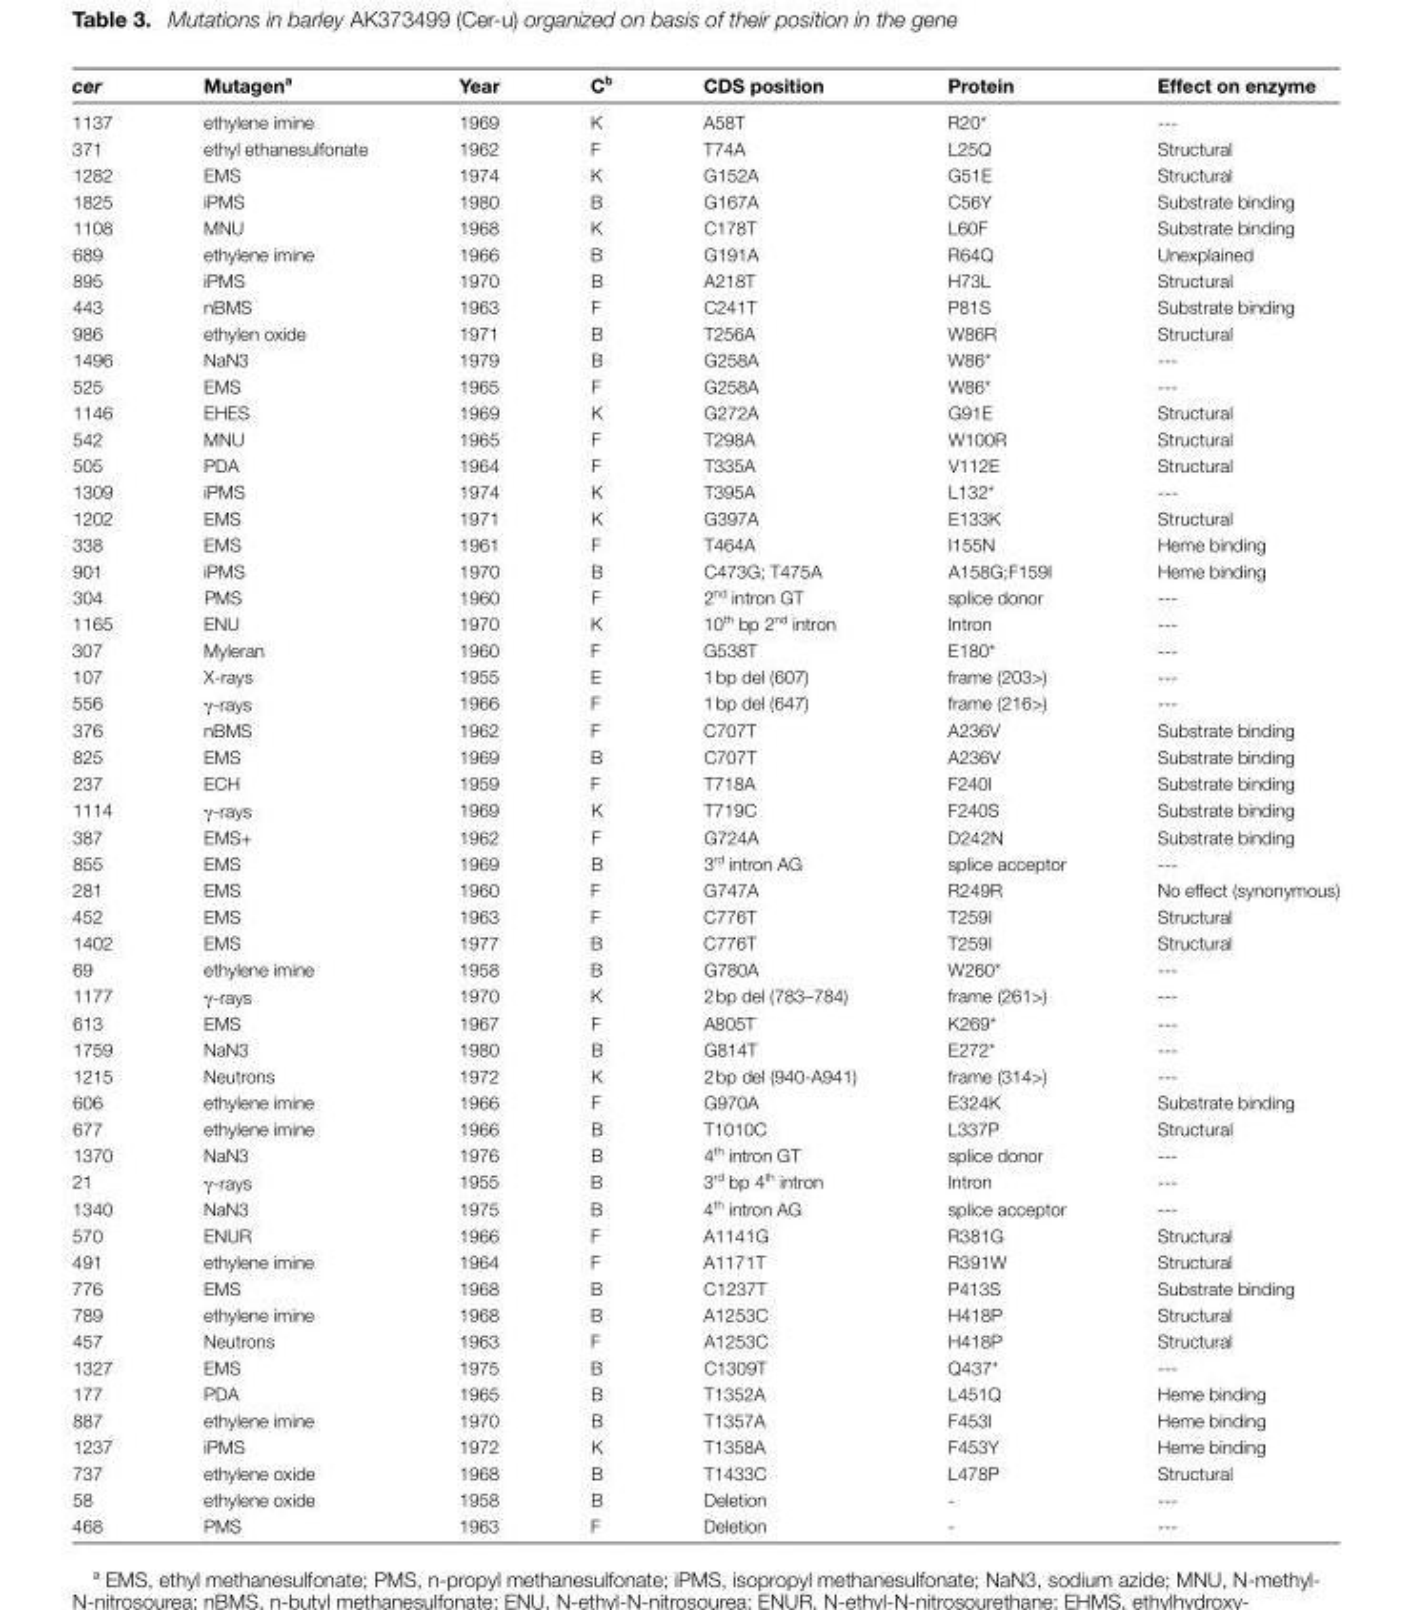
<table><thead><tr><td>cer</td><td>Mutagen<sup>a</sup></td><td>Year</td><td>C<sup>b</sup></td><td>CDS position</td><td>Protein</td><td>Effect on enzyme</td></tr></thead><tbody><tr><td>1137</td><td>ethylene imine</td><td>1969</td><td>K</td><td>A58T</td><td>R20*</td><td>---</td></tr><tr><td>371</td><td>ethyl ethanesulfonate</td><td>1962</td><td>F</td><td>T74A</td><td>L25Q</td><td>Structural</td></tr><tr><td>1282</td><td>EMS</td><td>1974</td><td>K</td><td>G152A</td><td>G51E</td><td>Structural</td></tr><tr><td>1825</td><td>iPMS</td><td>1980</td><td>B</td><td>G167A</td><td>C56Y</td><td>Substrate binding</td></tr><tr><td>1108</td><td>MNU</td><td>1968</td><td>K</td><td>C178T</td><td>L60F</td><td>Substrate binding</td></tr><tr><td>689</td><td>ethylene imine</td><td>1966</td><td>B</td><td>G191A</td><td>R64Q</td><td>Unexplained</td></tr><tr><td>895</td><td>iPMS</td><td>1970</td><td>B</td><td>A218T</td><td>H73L</td><td>Structural</td></tr><tr><td>443</td><td>nBMS</td><td>1963</td><td>F</td><td>C241T</td><td>P81S</td><td>Substrate binding</td></tr><tr><td>986</td><td>ethylen oxide</td><td>1971</td><td>B</td><td>T256A</td><td>W86R</td><td>Structural</td></tr><tr><td>1496</td><td>NaN3</td><td>1979</td><td>B</td><td>G258A</td><td>W86*</td><td>---</td></tr><tr><td>525</td><td>EMS</td><td>1965</td><td>F</td><td>G258A</td><td>W86*</td><td>---</td></tr><tr><td>1146</td><td>EHES</td><td>1969</td><td>K</td><td>G272A</td><td>G91E</td><td>Structural</td></tr><tr><td>542</td><td>MNU</td><td>1965</td><td>F</td><td>T298A</td><td>W100R</td><td>Structural</td></tr><tr><td>505</td><td>PDA</td><td>1964</td><td>F</td><td>T335A</td><td>V112E</td><td>Structural</td></tr><tr><td>1309</td><td>iPMS</td><td>1974</td><td>K</td><td>T395A</td><td>L132*</td><td>---</td></tr><tr><td>1202</td><td>EMS</td><td>1971</td><td>K</td><td>G397A</td><td>E133K</td><td>Structural</td></tr><tr><td>338</td><td>EMS</td><td>1961</td><td>F</td><td>T464A</td><td>I155N</td><td>Heme binding</td></tr><tr><td>901</td><td>iPMS</td><td>1970</td><td>B</td><td>C473G; T475A</td><td>A158G;F159I</td><td>Heme binding</td></tr><tr><td>304</td><td>PMS</td><td>1960</td><td>F</td><td>2<sup>nd</sup> intron GT</td><td>splice donor</td><td>---</td></tr><tr><td>1165</td><td>ENU</td><td>1970</td><td>K</td><td>10<sup>th</sup> bp 2<sup>nd</sup> intron</td><td>Intron</td><td>---</td></tr><tr><td>307</td><td>Myleran</td><td>1960</td><td>F</td><td>G538T</td><td>E180*</td><td>---</td></tr><tr><td>107</td><td>X-rays</td><td>1955</td><td>E</td><td>1 bp del (607)</td><td>frame (203&gt;)</td><td>---</td></tr><tr><td>556</td><td>γ-rays</td><td>1966</td><td>F</td><td>1 bp del (647)</td><td>frame (216&gt;)</td><td>---</td></tr><tr><td>376</td><td>nBMS</td><td>1962</td><td>F</td><td>C707T</td><td>A236V</td><td>Substrate binding</td></tr><tr><td>825</td><td>EMS</td><td>1969</td><td>B</td><td>C707T</td><td>A236V</td><td>Substrate binding</td></tr><tr><td>237</td><td>ECH</td><td>1959</td><td>F</td><td>T718A</td><td>F240I</td><td>Substrate binding</td></tr><tr><td>1114</td><td>γ-rays</td><td>1969</td><td>K</td><td>T719C</td><td>F240S</td><td>Substrate binding</td></tr><tr><td>387</td><td>EMS+</td><td>1962</td><td>F</td><td>G724A</td><td>D242N</td><td>Substrate binding</td></tr><tr><td>855</td><td>EMS</td><td>1969</td><td>B</td><td>3<sup>rd</sup> intron AG</td><td>splice acceptor</td><td>---</td></tr><tr><td>281</td><td>EMS</td><td>1960</td><td>F</td><td>G747A</td><td>R249R</td><td>No effect (synonymous)</td></tr><tr><td>452</td><td>EMS</td><td>1963</td><td>F</td><td>C776T</td><td>T259I</td><td>Structural</td></tr><tr><td>1402</td><td>EMS</td><td>1977</td><td>B</td><td>C776T</td><td>T259I</td><td>Structural</td></tr><tr><td>69</td><td>ethylene imine</td><td>1958</td><td>B</td><td>G780A</td><td>W260*</td><td>---</td></tr><tr><td>1177</td><td>γ-rays</td><td>1970</td><td>K</td><td>2 bp del (783–784)</td><td>frame (261&gt;)</td><td>---</td></tr><tr><td>613</td><td>EMS</td><td>1967</td><td>F</td><td>A805T</td><td>K269*</td><td>---</td></tr><tr><td>1759</td><td>NaN3</td><td>1980</td><td>B</td><td>G814T</td><td>E272*</td><td>---</td></tr><tr><td>1215</td><td>Neutrons</td><td>1972</td><td>K</td><td>2 bp del (940-A941)</td><td>frame (314&gt;)</td><td>---</td></tr><tr><td>606</td><td>ethylene imine</td><td>1966</td><td>F</td><td>G970A</td><td>E324K</td><td>Substrate binding</td></tr><tr><td>677</td><td>ethylene imine</td><td>1966</td><td>B</td><td>T1010C</td><td>L337P</td><td>Structural</td></tr><tr><td>1370</td><td>NaN3</td><td>1976</td><td>B</td><td>4<sup>th</sup> intron GT</td><td>splice donor</td><td>---</td></tr><tr><td>21</td><td>γ-rays</td><td>1955</td><td>B</td><td>3<sup>rd</sup> bp 4<sup>th</sup> intron</td><td>Intron</td><td>---</td></tr><tr><td>1340</td><td>NaN3</td><td>1975</td><td>B</td><td>4<sup>th</sup> intron AG</td><td>splice acceptor</td><td>---</td></tr><tr><td>570</td><td>ENUR</td><td>1966</td><td>F</td><td>A1141G</td><td>R381G</td><td>Structural</td></tr><tr><td>491</td><td>ethylene imine</td><td>1964</td><td>F</td><td>A1171T</td><td>R391W</td><td>Structural</td></tr><tr><td>776</td><td>EMS</td><td>1968</td><td>B</td><td>C1237T</td><td>P413S</td><td>Substrate binding</td></tr><tr><td>789</td><td>ethylene imine</td><td>1968</td><td>B</td><td>A1253C</td><td>H418P</td><td>Structural</td></tr><tr><td>457</td><td>Neutrons</td><td>1963</td><td>F</td><td>A1253C</td><td>H418P</td><td>Structural</td></tr><tr><td>1327</td><td>EMS</td><td>1975</td><td>B</td><td>C1309T</td><td>Q437*</td><td>---</td></tr><tr><td>177</td><td>PDA</td><td>1965</td><td>B</td><td>T1352A</td><td>L451Q</td><td>Heme binding</td></tr><tr><td>887</td><td>ethylene imine</td><td>1970</td><td>B</td><td>T1357A</td><td>F453I</td><td>Heme binding</td></tr><tr><td>1237</td><td>iPMS</td><td>1972</td><td>K</td><td>T1358A</td><td>F453Y</td><td>Heme binding</td></tr><tr><td>737</td><td>ethylene oxide</td><td>1968</td><td>B</td><td>T1433C</td><td>L478P</td><td>Structural</td></tr><tr><td>58</td><td>ethylene oxide</td><td>1958</td><td>B</td><td>Deletion</td><td>-</td><td>---</td></tr><tr><td>468</td><td>PMS</td><td>1963</td><td>F</td><td>Deletion</td><td>-</td><td>---</td></tr></tbody></table>